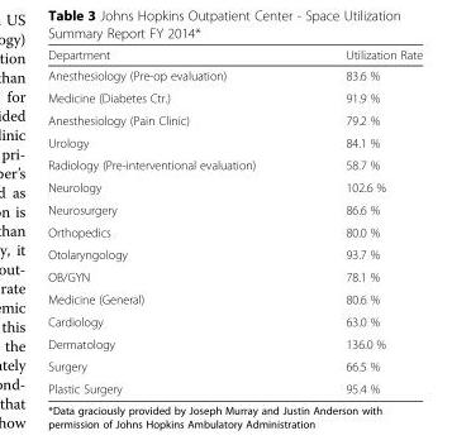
<table><thead><tr><td>Department</td><td>Utilization Rate</td></tr></thead><tbody><tr><td>Anesthesiology (Pre-op evaluation)</td><td>83.6 %</td></tr><tr><td>Medicine (Diabetes Ctr.)</td><td>91.9 %</td></tr><tr><td>Anesthesiology (Pain Clinic)</td><td>79.2 %</td></tr><tr><td>Urology</td><td>84.1 %</td></tr><tr><td>Radiology (Pre-interventional evaluation)</td><td>58.7 %</td></tr><tr><td>Neurology</td><td>102.6 %</td></tr><tr><td>Neurosurgery</td><td>86.6 %</td></tr><tr><td>Orthopedics</td><td>80.0 %</td></tr><tr><td>Otolaryngology</td><td>93.7 %</td></tr><tr><td>OB/GYN</td><td>78.1 %</td></tr><tr><td>Medicine (General)</td><td>80.6 %</td></tr><tr><td>Cardiology</td><td>63.0 %</td></tr><tr><td>Dermatology</td><td>136.0 %</td></tr><tr><td>Surgery</td><td>66.5 %</td></tr><tr><td>Plastic Surgery</td><td>95.4 %</td></tr></tbody></table>